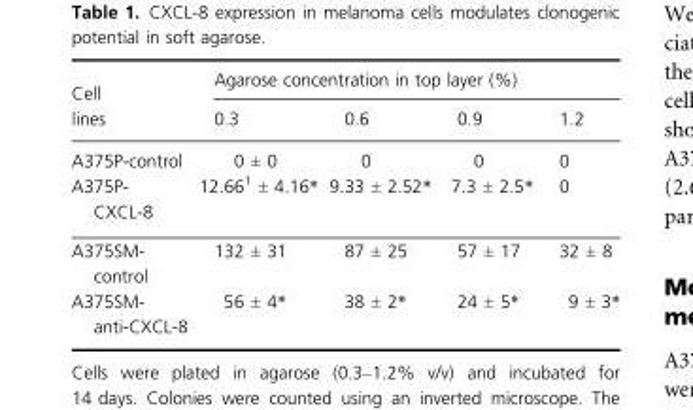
<table><thead><tr><td rowspan="2">Cell lines</td><td colspan="4">Agarose concentration in top layer (%)</td></tr><tr><td>0.3</td><td>0.6</td><td>0.9</td><td>1.2</td></tr></thead><tbody><tr><td>A375P-control</td><td>0 ± 0</td><td>0</td><td>0</td><td>0</td></tr><tr><td>A375P- CXCL-8</td><td>12.66<sup>1</sup> ± 4.16*</td><td>9.33 ± 2.52*</td><td>7.3 ± 2.5*</td><td>0</td></tr><tr><td>A375SM- control</td><td>132 ± 31</td><td>87 ± 25</td><td>57 ± 17</td><td>32 ± 8</td></tr><tr><td>A375SM- anti-CXCL-8</td><td>56 ± 4*</td><td>38 ± 2*</td><td>24 ± 5*</td><td>9 ± 3*</td></tr></tbody></table>